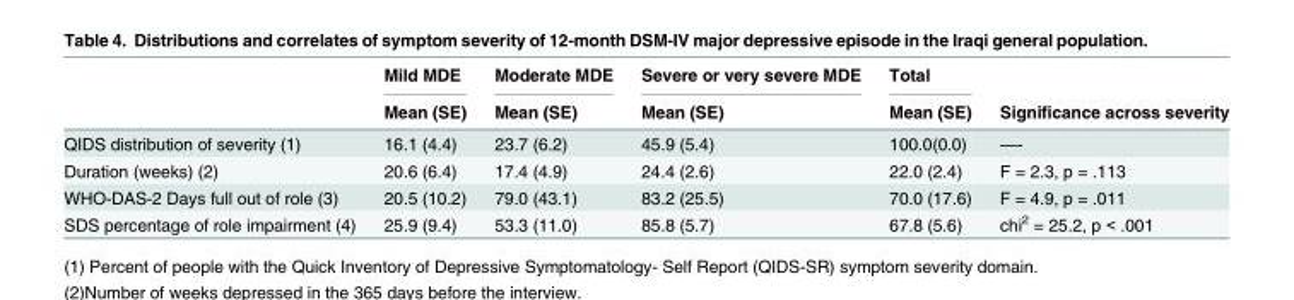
<table><thead><tr><td rowspan="2"></td><td rowspan="2">Mild MDE Mean (SE)</td><td rowspan="2">Moderate MDE Mean (SE)</td><td rowspan="2">Severe or very severe MDE Mean (SE)</td><td rowspan="2">Total Mean (SE)</td><td rowspan="2">Significance across severity</td></tr><tr></tr></thead><tbody><tr><td>QIDS distribution of severity (1)</td><td>16.1 (4.4)</td><td>23.7 (6.2)</td><td>45.9 (5.4)</td><td>100.0(0.0)</td><td>—-</td></tr><tr><td>Duration (weeks) (2)</td><td>20.6 (6.4)</td><td>17.4 (4.9)</td><td>24.4 (2.6)</td><td>22.0 (2.4)</td><td>F = 2.3, p = .113</td></tr><tr><td>WHO-DAS-2 Days full out of role (3)</td><td>20.5 (10.2)</td><td>79.0 (43.1)</td><td>83.2 (25.5)</td><td>70.0 (17.6)</td><td>F = 4.9, p = .011</td></tr><tr><td>SDS percentage of role impairment (4)</td><td>25.9 (9.4)</td><td>53.3 (11.0)</td><td>85.8 (5.7)</td><td>67.8 (5.6)</td><td>chi<sup>2</sup> = 25.2, p &lt; .001</td></tr></tbody></table>